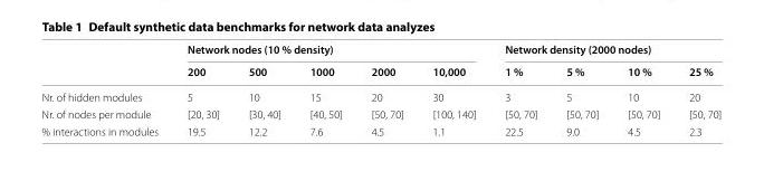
<table><thead><tr><td rowspan="2"></td><td colspan="5">Network nodes (10 % density)</td><td colspan="4">Network density (2000 nodes)</td></tr><tr><td>200</td><td>500</td><td>1000</td><td>2000</td><td>10,000</td><td>1 %</td><td>5 %</td><td>10 %</td><td>25 %</td></tr></thead><tbody><tr><td>Nr. of hidden modules</td><td>5</td><td>10</td><td>15</td><td>20</td><td>30</td><td>3</td><td>5</td><td>10</td><td>20</td></tr><tr><td>Nr. of nodes per module</td><td>[20, 30]</td><td>[30, 40]</td><td>[40, 50]</td><td>[50, 70]</td><td>[100, 140]</td><td>[50, 70]</td><td>[50, 70]</td><td>[50, 70]</td><td>[50, 70]</td></tr><tr><td>% interactions in modules</td><td>19.5</td><td>12.2</td><td>7.6</td><td>4.5</td><td>1.1</td><td>22.5</td><td>9.0</td><td>4.5</td><td>2.3</td></tr></tbody></table>